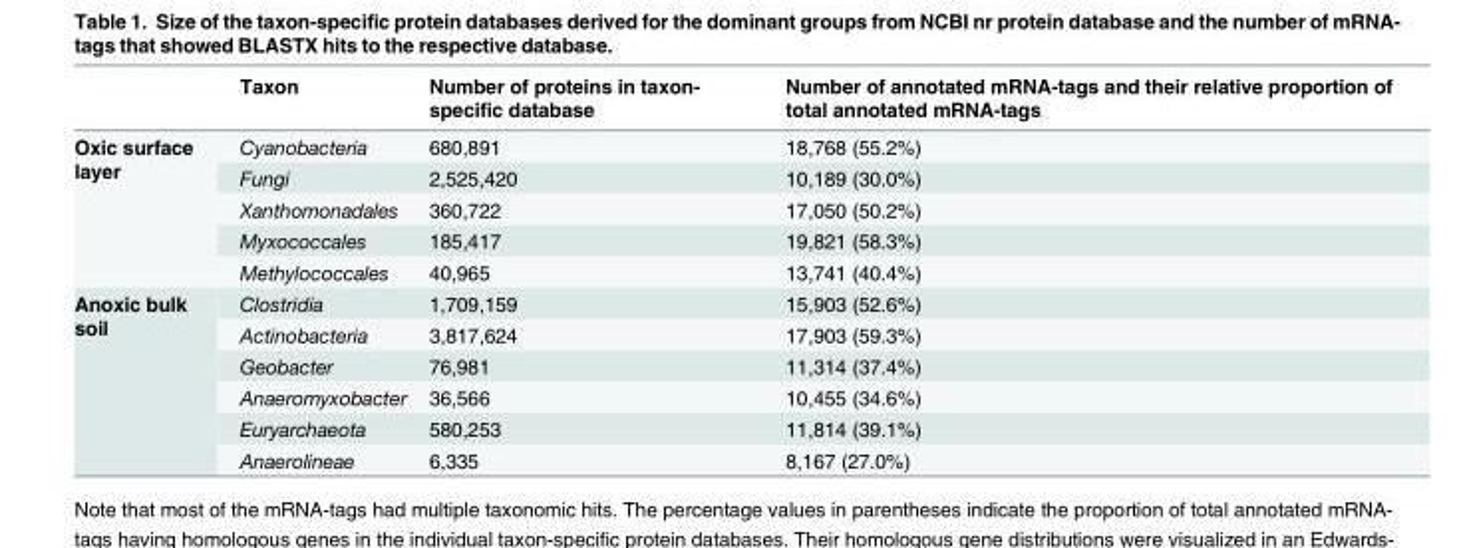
<table><thead><tr><td></td><td>Taxon</td><td>Number of proteins in taxon- specific database</td><td>Number of annotated mRNA-tags and their relative proportion of total annotated mRNA-tags</td></tr></thead><tbody><tr><td rowspan="5">Oxic surface layer</td><td>Cyanobacteria</td><td>680,891</td><td>18,768 (55.2%)</td></tr><tr><td>Fungi</td><td>2,525,420</td><td>10,189 (30.0%)</td></tr><tr><td>Xanthomonadales</td><td>360,722</td><td>17,050 (50.2%)</td></tr><tr><td>Myxococcales</td><td>185,417</td><td>19,821 (58.3%)</td></tr><tr><td>Methylococcales</td><td>40,965</td><td>13,741 (40.4%)</td></tr><tr><td rowspan="6">Anoxic bulk soil</td><td>Clostridia</td><td>1,709,159</td><td>15,903 (52.6%)</td></tr><tr><td>Actinobacteria</td><td>3,817,624</td><td>17,903 (59.3%)</td></tr><tr><td>Geobacter</td><td>76,981</td><td>11,314 (37.4%)</td></tr><tr><td>Anaeromyxobacter</td><td>36,566</td><td>10,455 (34.6%)</td></tr><tr><td>Euryarchaeota</td><td>580,253</td><td>11,814 (39.1%)</td></tr><tr><td>Anaerolineae</td><td>6,335</td><td>8,167 (27.0%)</td></tr></tbody></table>